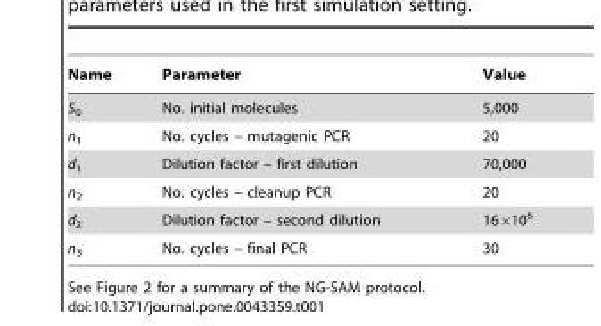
<table><thead><tr><td>Name</td><td>Parameter</td><td>Value</td></tr></thead><tbody><tr><td>S<sub>0</sub></td><td>No. initial molecules</td><td>5,000</td></tr><tr><td>n<sub>1</sub></td><td>No. cycles – mutagenic PCR</td><td>20</td></tr><tr><td>d<sub>1</sub></td><td>Dilution factor – first dilution</td><td>70,000</td></tr><tr><td>n<sub>2</sub></td><td>No. cycles – cleanup PCR</td><td>20</td></tr><tr><td>d<sub>2</sub></td><td>Dilution factor – second dilution</td><td>16×10<sup>6</sup></td></tr><tr><td>n<sub>3</sub></td><td>No. cycles – final PCR</td><td>30</td></tr></tbody></table>